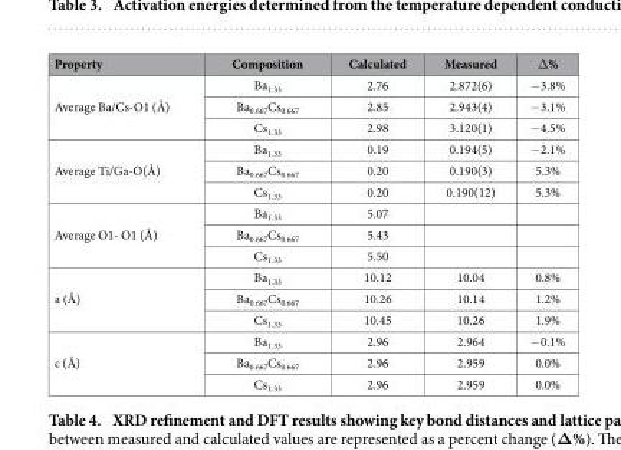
<table><thead><tr><td>Property</td><td>Composition</td><td>Calculated</td><td>Measured</td><td>Δ %</td></tr></thead><tbody><tr><td rowspan="3">Average Ba/Cs-O1 (Å)</td><td>Ba<sub>1.33</sub></td><td>2.76</td><td>2.872(6)</td><td>− 3.8%</td></tr><tr><td>Ba<sub>0.667</sub>Cs<sub>0.667</sub></td><td>2.85</td><td>2.943(4)</td><td>− 3.1%</td></tr><tr><td>Cs<sub>1.33</sub></td><td>2.98</td><td>3.120(1)</td><td>− 4.5%</td></tr><tr><td rowspan="3">Average Ti/Ga-O(Å)</td><td>Ba<sub>1.33</sub></td><td>0.19</td><td>0.194(5)</td><td>− 2.1%</td></tr><tr><td>Ba<sub>0.667</sub>Cs<sub>0.667</sub></td><td>0.20</td><td>0.190(3)</td><td>5.3%</td></tr><tr><td>Cs<sub>1.33</sub></td><td>0.20</td><td>0.190(12)</td><td>5.3%</td></tr><tr><td rowspan="3">Average O1- O1 (Å)</td><td>Ba<sub>1.33</sub></td><td>5.07</td><td></td><td></td></tr><tr><td>Ba<sub>0.667</sub>Cs<sub>0.667</sub></td><td>5.43</td><td></td><td></td></tr><tr><td>Cs<sub>1.33</sub></td><td>5.50</td><td></td><td></td></tr><tr><td rowspan="3">a (Å)</td><td>Ba<sub>1.33</sub></td><td>10.12</td><td>10.04</td><td>0.8%</td></tr><tr><td>Ba<sub>0.667</sub>Cs<sub>0.667</sub></td><td>10.26</td><td>10.14</td><td>1.2%</td></tr><tr><td>Cs<sub>1.33</sub></td><td>10.45</td><td>10.26</td><td>1.9%</td></tr><tr><td rowspan="3">c (Å)</td><td>Ba<sub>1.33</sub></td><td>2.96</td><td>2.964</td><td>− 0.1%</td></tr><tr><td>Ba<sub>0.667</sub>Cs<sub>0.667</sub></td><td>2.96</td><td>2.959</td><td>0.0%</td></tr><tr><td>Cs<sub>1.33</sub></td><td>2.96</td><td>2.959</td><td>0.0%</td></tr></tbody></table>